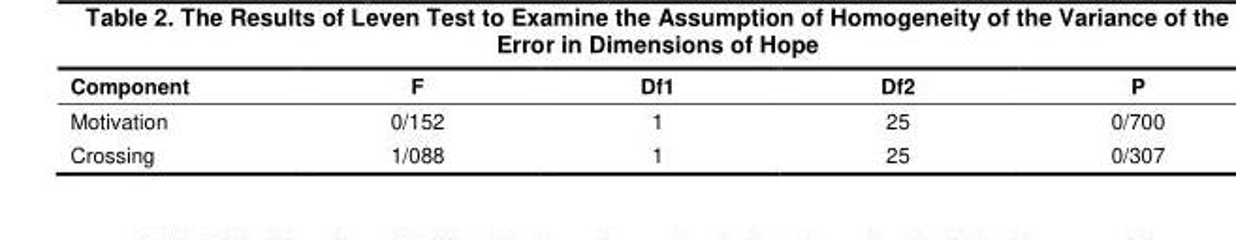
<table><thead><tr><td>Component</td><td>F</td><td>Df1</td><td>Df2</td><td>P</td></tr></thead><tbody><tr><td>Motivation</td><td>0/152</td><td>1</td><td>25</td><td>0/700</td></tr><tr><td>Crossing</td><td>1/088</td><td>1</td><td>25</td><td>0/307</td></tr></tbody></table>